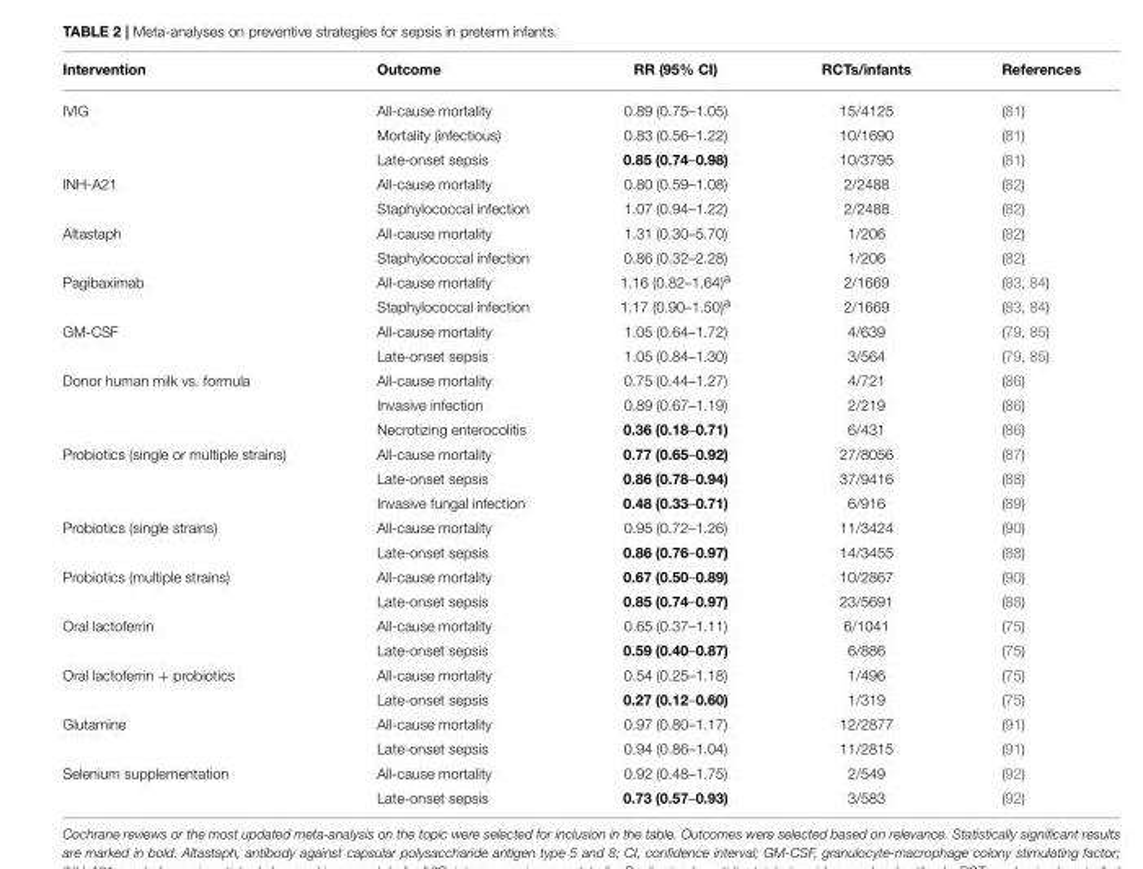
<table><thead><tr><td>Intervention</td><td>Outcome</td><td>RR (95% CI)</td><td>RCTs/infants</td><td>References</td></tr></thead><tbody><tr><td rowspan="3">IVIG</td><td>All-cause mortality</td><td>0.89 (0.75–1.05)</td><td>15/4125</td><td>(81)</td></tr><tr><td>Mortality (infectious)</td><td>0.83 (0.56–1.22)</td><td>10/1690</td><td>(81)</td></tr><tr><td>Late-onset sepsis</td><td>0.85 (0.74–0.98)</td><td>10/3795</td><td>(81)</td></tr><tr><td rowspan="2">INH-A21</td><td>All-cause mortality</td><td>0.80 (0.59–1.08)</td><td>2/2488</td><td>(82)</td></tr><tr><td>Staphylococcal infection</td><td>1.07 (0.94–1.22)</td><td>2/2488</td><td>(82)</td></tr><tr><td rowspan="2">Altastaph</td><td>All-cause mortality</td><td>1.31 (0.30–5.70)</td><td>1/206</td><td>(82)</td></tr><tr><td>Staphylococcal infection</td><td>0.86 (0.32–2.28)</td><td>1/206</td><td>(82)</td></tr><tr><td rowspan="2">Pagibaximab</td><td>All-cause mortality</td><td>1.16 (0.82–1.64)<sup>a</sup></td><td>2/1669</td><td>(83, 84)</td></tr><tr><td>Staphylococcal infection</td><td>1.17 (0.90–1.50)<sup>a</sup></td><td>2/1669</td><td>(83, 84)</td></tr><tr><td rowspan="2">GM-CSF</td><td>All-cause mortality</td><td>1.05 (0.64–1.72)</td><td>4/639</td><td>(79, 85)</td></tr><tr><td>Late-onset sepsis</td><td>1.05 (0.84–1.30)</td><td>3/564</td><td>(79, 85)</td></tr><tr><td rowspan="3">Donor human milk vs. formula</td><td>All-cause mortality</td><td>0.75 (0.44–1.27)</td><td>4/721</td><td>(86)</td></tr><tr><td>Invasive infection</td><td>0.89 (0.67–1.19)</td><td>2/219</td><td>(86)</td></tr><tr><td>Necrotizing enterocolitis</td><td>0.36 (0.18–0.71)</td><td>6/431</td><td>(86)</td></tr><tr><td rowspan="3">Probiotics (single or multiple strains)</td><td>All-cause mortality</td><td>0.77 (0.65–0.92)</td><td>27/8056</td><td>(87)</td></tr><tr><td>Late-onset sepsis</td><td>0.86 (0.78–0.94)</td><td>37/9416</td><td>(88)</td></tr><tr><td>Invasive fungal infection</td><td>0.48 (0.33–0.71)</td><td>6/916</td><td>(89)</td></tr><tr><td rowspan="2">Probiotics (single strains)</td><td>All-cause mortality</td><td>0.95 (0.72–1.26)</td><td>11/3424</td><td>(90)</td></tr><tr><td>Late-onset sepsis</td><td>0.86 (0.76–0.97)</td><td>14/3455</td><td>(88)</td></tr><tr><td rowspan="2">Probiotics (multiple strains)</td><td>All-cause mortality</td><td>0.67 (0.50–0.89)</td><td>10/2867</td><td>(90)</td></tr><tr><td>Late-onset sepsis</td><td>0.85 (0.74–0.97)</td><td>23/5691</td><td>(88)</td></tr><tr><td rowspan="2">Oral lactoferrin</td><td>All-cause mortality</td><td>0.65 (0.37–1.11)</td><td>6/1041</td><td>(75)</td></tr><tr><td>Late-onset sepsis</td><td>0.59 (0.40–0.87)</td><td>6/886</td><td>(75)</td></tr><tr><td rowspan="2">Oral lactoferrin + probiotics</td><td>All-cause mortality</td><td>0.54 (0.25–1.18)</td><td>1/496</td><td>(75)</td></tr><tr><td>Late-onset sepsis</td><td>0.27 (0.12–0.60)</td><td>1/319</td><td>(75)</td></tr><tr><td rowspan="2">Glutamine</td><td>All-cause mortality</td><td>0.97 (0.80–1.17)</td><td>12/2877</td><td>(91)</td></tr><tr><td>Late-onset sepsis</td><td>0.94 (0.86–1.04)</td><td>11/2815</td><td>(91)</td></tr><tr><td rowspan="2">Selenium supplementation</td><td>All-cause mortality</td><td>0.92 (0.48–1.75)</td><td>2/549</td><td>(92)</td></tr><tr><td>Late-onset sepsis</td><td>0.73 (0.57–0.93)</td><td>3/583</td><td>(92)</td></tr></tbody></table>